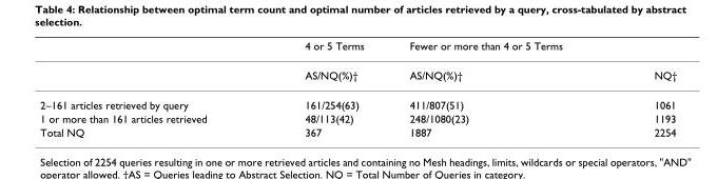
<table><thead><tr><td></td><td>4 or 5 Terms</td><td>Fewer or more than 4 or 5 Terms</td><td></td></tr></thead><tbody><tr><td></td><td>AS/NQ(%)†</td><td>AS/NQ(%)†</td><td>NQ†</td></tr><tr><td>2–161 articles retrieved by query</td><td>161/254(63)</td><td>411/807(51)</td><td>1061</td></tr><tr><td>1 or more than 161 articles retrieved</td><td>48/113(42)</td><td>248/1080(23)</td><td>1193</td></tr><tr><td>Total NQ</td><td>367</td><td>1887</td><td>2254</td></tr></tbody></table>